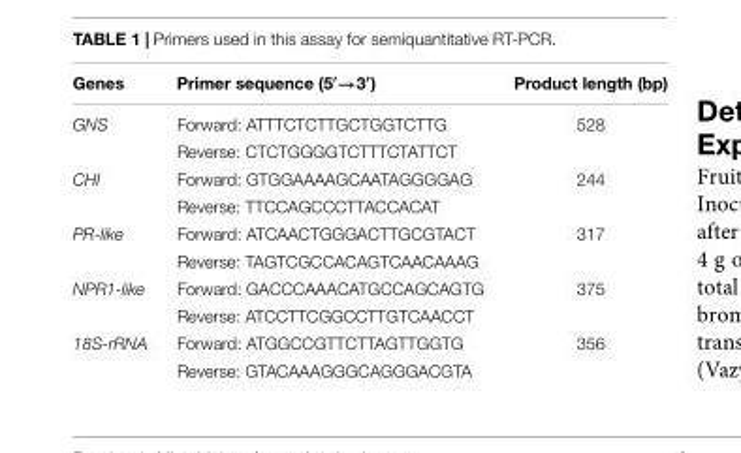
<table><thead><tr><td>Genes</td><td>Primer sequence (5′→3′)</td><td>Product length (bp)</td></tr></thead><tbody><tr><td rowspan="2">GNS</td><td>Forward: ATTTCTCTTGCTGGTCTTG</td><td>528</td></tr><tr><td>Reverse: CTCTGGGGTCTTTCTATTCT</td><td></td></tr><tr><td rowspan="2">CHI</td><td>Forward: GTGGAAAAGCAATAGGGGAG</td><td>244</td></tr><tr><td>Reverse: TTCCAGCCCTTACCACAT</td><td></td></tr><tr><td rowspan="2">PR-like</td><td>Forward: ATCAACTGGGACTTGCGTACT</td><td>317</td></tr><tr><td>Reverse: TAGTCGCCACAGTCAACAAAG</td><td></td></tr><tr><td rowspan="2">NPR1-like</td><td>Forward: GACCCAAACATGCCAGCAGTG</td><td>375</td></tr><tr><td>Reverse: ATCCTTCGGCCTTGTCAACCT</td><td></td></tr><tr><td rowspan="2">18S-rRNA</td><td>Forward: ATGGCCGTTCTTAGTTGGTG</td><td>356</td></tr><tr><td>Reverse: GTACAAAGGGCAGGGACGTA</td><td></td></tr></tbody></table>